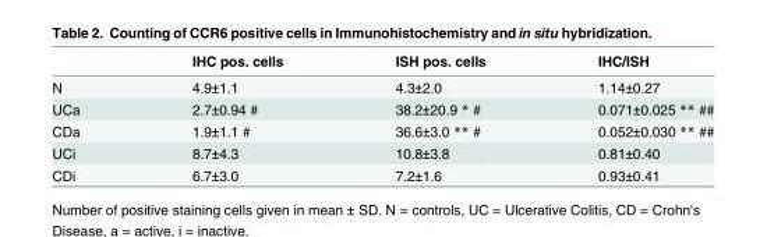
<table><thead><tr><td></td><td>IHC pos. cells</td><td>ISH pos. cells</td><td>IHC/ISH</td></tr></thead><tbody><tr><td>N</td><td>4.9±1.1</td><td>4.3±2.0</td><td>1.14±0.27</td></tr><tr><td>UCa</td><td>2.7±0.94 #</td><td>38.2±20.9 * #</td><td>0.071±0.025 ** ##</td></tr><tr><td>CDa</td><td>1.9±1.1 #</td><td>36.6±3.0 ** #</td><td>0.052±0.030 ** ##</td></tr><tr><td>UCi</td><td>8.7±4.3</td><td>10.8±3.8</td><td>0.81±0.40</td></tr><tr><td>CDi</td><td>6.7±3.0</td><td>7.2±1.6</td><td>0.93±0.41</td></tr></tbody></table>